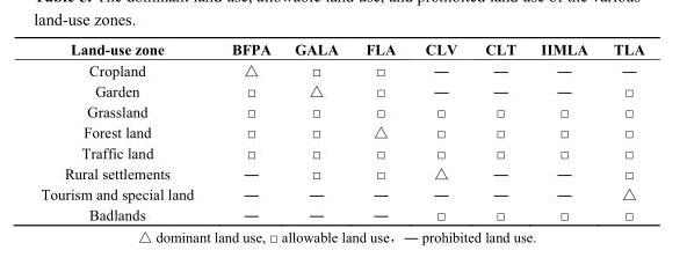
<table><thead><tr><td>Land-use zone</td><td>BFPA</td><td>GALA</td><td>FLA</td><td>CLV</td><td>CLT</td><td>IIMLA</td><td>TLA</td></tr></thead><tbody><tr><td>Cropland</td><td>△</td><td>□</td><td>□</td><td>―</td><td>―</td><td>―</td><td>―</td></tr><tr><td>Garden</td><td>□</td><td>△</td><td>□</td><td>―</td><td>―</td><td>―</td><td>□</td></tr><tr><td>Grassland</td><td>□</td><td>□</td><td>□</td><td>□</td><td>□</td><td>□</td><td>□</td></tr><tr><td>Forest land</td><td>□</td><td>□</td><td>△</td><td>□</td><td>□</td><td>□</td><td>□</td></tr><tr><td>Traffic land</td><td>□</td><td>□</td><td>□</td><td>□</td><td>□</td><td>□</td><td>□</td></tr><tr><td>Rural settlements</td><td>―</td><td>□</td><td>□</td><td>△</td><td>―</td><td>―</td><td>□</td></tr><tr><td>Tourism and special land</td><td>―</td><td>―</td><td>―</td><td>―</td><td>―</td><td>―</td><td>△</td></tr><tr><td>Badlands</td><td>―</td><td>―</td><td>―</td><td>□</td><td>□</td><td>□</td><td>□</td></tr></tbody></table>